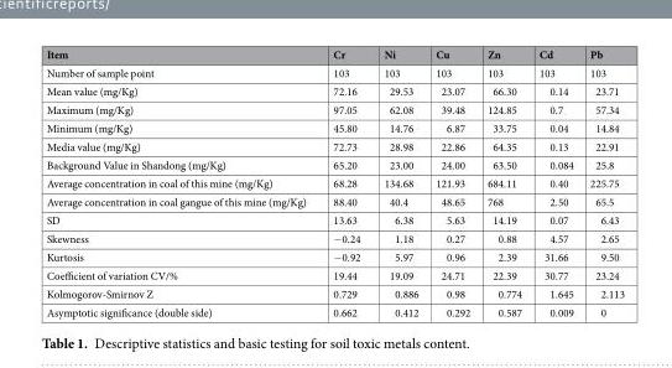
<table><thead><tr><td>Item</td><td>Cr</td><td>Ni</td><td>Cu</td><td>Zn</td><td>Cd</td><td>Pb</td></tr></thead><tbody><tr><td>Number of sample point</td><td>103</td><td>103</td><td>103</td><td>103</td><td>103</td><td>103</td></tr><tr><td>Mean value (mg/Kg)</td><td>72.16</td><td>29.53</td><td>23.07</td><td>66.30</td><td>0.14</td><td>23.71</td></tr><tr><td>Maximum (mg/Kg)</td><td>97.05</td><td>62.08</td><td>39.48</td><td>124.85</td><td>0.7</td><td>57.34</td></tr><tr><td>Minimum (mg/Kg)</td><td>45.80</td><td>14.76</td><td>6.87</td><td>33.75</td><td>0.04</td><td>14.84</td></tr><tr><td>Media value (mg/Kg)</td><td>72.73</td><td>28.98</td><td>22.86</td><td>64.35</td><td>0.13</td><td>22.91</td></tr><tr><td>Background Value in Shandong (mg/Kg)</td><td>65.20</td><td>23.00</td><td>24.00</td><td>63.50</td><td>0.084</td><td>25.8</td></tr><tr><td>Average concentration in coal of this mine (mg/Kg)</td><td>68.28</td><td>134.68</td><td>121.93</td><td>684.11</td><td>0.40</td><td>225.75</td></tr><tr><td>Average concentration in coal gangue of this mine (mg/Kg)</td><td>88.40</td><td>40.4</td><td>48.65</td><td>768</td><td>2.50</td><td>65.5</td></tr><tr><td>SD</td><td>13.63</td><td>6.38</td><td>5.63</td><td>14.19</td><td>0.07</td><td>6.43</td></tr><tr><td>Skewness</td><td>−0.24</td><td>1.18</td><td>0.27</td><td>0.88</td><td>4.57</td><td>2.65</td></tr><tr><td>Kurtosis</td><td>−0.92</td><td>5.97</td><td>0.96</td><td>2.39</td><td>31.66</td><td>9.50</td></tr><tr><td>Coefficient of variation CV/%</td><td>19.44</td><td>19.09</td><td>24.71</td><td>22.39</td><td>30.77</td><td>23.24</td></tr><tr><td>Kolmogorov-Smirnov Z</td><td>0.729</td><td>0.886</td><td>0.98</td><td>0.774</td><td>1.645</td><td>2.113</td></tr><tr><td>Asymptotic significance (double side)</td><td>0.662</td><td>0.412</td><td>0.292</td><td>0.587</td><td>0.009</td><td>0</td></tr></tbody></table>